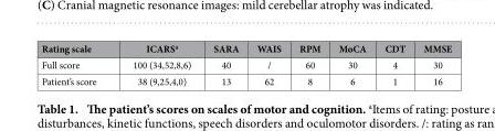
<table><thead><tr><td>Rating scale</td><td>ICARS<sup>a</sup></td><td>SARA</td><td>WAIS</td><td>RPM</td><td>MoCA</td><td>CDT</td><td>MMSE</td></tr></thead><tbody><tr><td>Full score</td><td>100 (34,52,8,6)</td><td>40</td><td>/</td><td>60</td><td>30</td><td>4</td><td>30</td></tr><tr><td>Patient’s score</td><td>38 (9,25,4,0)</td><td>13</td><td>62</td><td>8</td><td>6</td><td>1</td><td>16</td></tr></tbody></table>